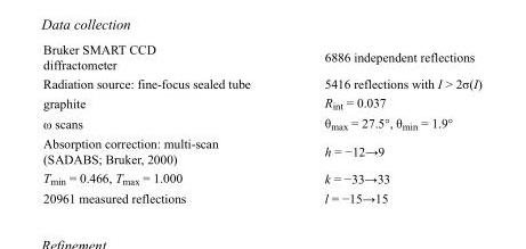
<table><tbody><tr><td>Bruker SMART CCD diffractometer</td><td>6886 independent reflections</td></tr><tr><td>Radiation source: fine-focus sealed tube</td><td>5416 reflections with I &gt; 2σ(I)</td></tr><tr><td>graphite</td><td>R<sub>int</sub> = 0.037</td></tr><tr><td>ω scans</td><td>θ<sub>max</sub> = 27.5°, θ<sub>min</sub> = 1.9°</td></tr><tr><td>Absorption correction: multi-scan (SADABS; Bruker, 2000)</td><td>h = −12→9</td></tr><tr><td>T<sub>min</sub> = 0.466, T<sub>max</sub> = 1.000</td><td>k = −33→33</td></tr><tr><td>20961 measured reflections</td><td>l = −15→15</td></tr></tbody></table>